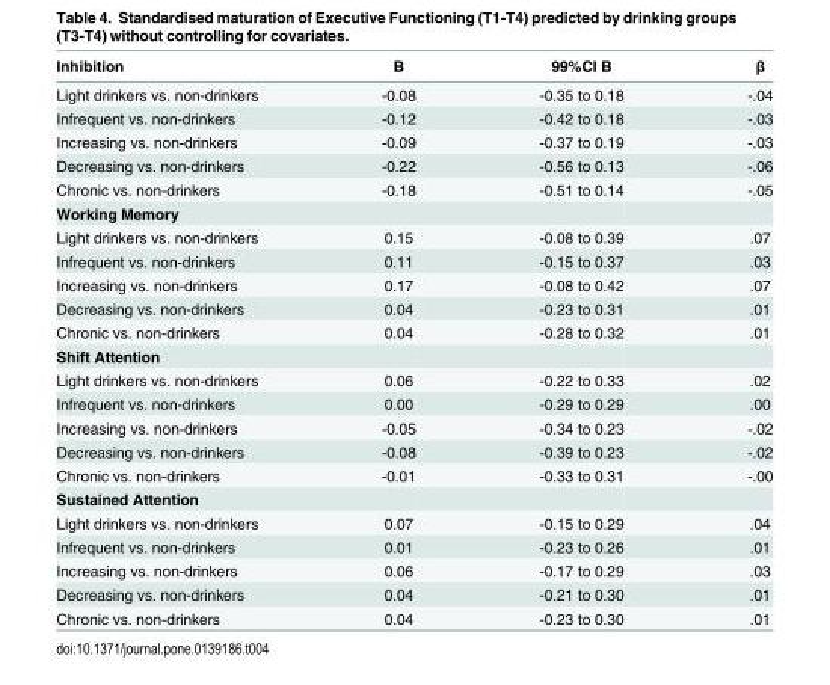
<table><thead><tr><td>Inhibition</td><td>B</td><td>99%CI B</td><td>β</td></tr></thead><tbody><tr><td>Light drinkers vs. non-drinkers</td><td>-0.08</td><td>-0.35 to 0.18</td><td>-.04</td></tr><tr><td>Infrequent vs. non-drinkers</td><td>-0.12</td><td>-0.42 to 0.18</td><td>-.03</td></tr><tr><td>Increasing vs. non-drinkers</td><td>-0.09</td><td>-0.37 to 0.19</td><td>-.03</td></tr><tr><td>Decreasing vs. non-drinkers</td><td>-0.22</td><td>-0.56 to 0.13</td><td>-.06</td></tr><tr><td>Chronic vs. non-drinkers</td><td>-0.18</td><td>-0.51 to 0.14</td><td>-.05</td></tr><tr><td colspan="4">Working Memory</td></tr><tr><td>Light drinkers vs. non-drinkers</td><td>0.15</td><td>-0.08 to 0.39</td><td>.07</td></tr><tr><td>Infrequent vs. non-drinkers</td><td>0.11</td><td>-0.15 to 0.37</td><td>.03</td></tr><tr><td>Increasing vs. non-drinkers</td><td>0.17</td><td>-0.08 to 0.42</td><td>.07</td></tr><tr><td>Decreasing vs. non-drinkers</td><td>0.04</td><td>-0.23 to 0.31</td><td>.01</td></tr><tr><td>Chronic vs. non-drinkers</td><td>0.04</td><td>-0.28 to 0.32</td><td>.01</td></tr><tr><td colspan="4">Shift Attention</td></tr><tr><td>Light drinkers vs. non-drinkers</td><td>0.06</td><td>-0.22 to 0.33</td><td>.02</td></tr><tr><td>Infrequent vs. non-drinkers</td><td>0.00</td><td>-0.29 to 0.29</td><td>.00</td></tr><tr><td>Increasing vs. non-drinkers</td><td>-0.05</td><td>-0.34 to 0.23</td><td>-.02</td></tr><tr><td>Decreasing vs. non-drinkers</td><td>-0.08</td><td>-0.39 to 0.23</td><td>-.02</td></tr><tr><td>Chronic vs. non-drinkers</td><td>-0.01</td><td>-0.33 to 0.31</td><td>-.00</td></tr><tr><td colspan="4">Sustained Attention</td></tr><tr><td>Light drinkers vs. non-drinkers</td><td>0.07</td><td>-0.15 to 0.29</td><td>.04</td></tr><tr><td>Infrequent vs. non-drinkers</td><td>0.01</td><td>-0.23 to 0.26</td><td>.01</td></tr><tr><td>Increasing vs. non-drinkers</td><td>0.06</td><td>-0.17 to 0.29</td><td>.03</td></tr><tr><td>Decreasing vs. non-drinkers</td><td>0.04</td><td>-0.21 to 0.30</td><td>.01</td></tr><tr><td>Chronic vs. non-drinkers</td><td>0.04</td><td>-0.23 to 0.30</td><td>.01</td></tr></tbody></table>